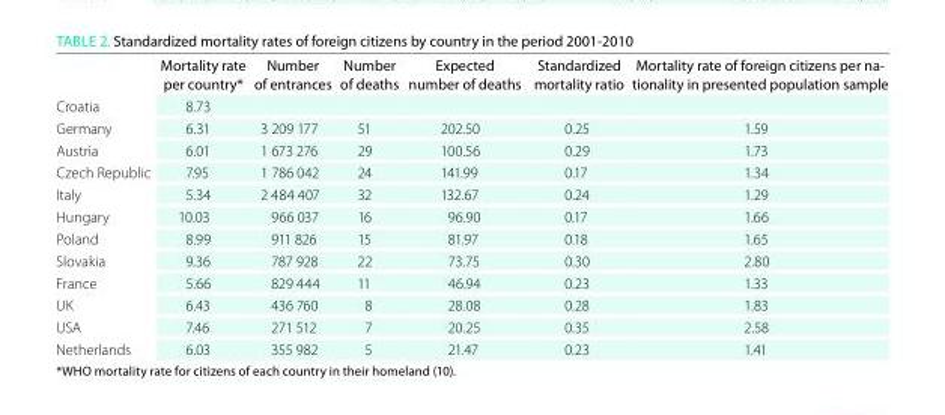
<table><thead><tr><td></td><td>Mortality rate per country*</td><td>number of entrances</td><td>number of deaths</td><td>expected number of deaths</td><td>standardized mortality ratio</td><td>Mortality rate of foreign citizens per na- tionality in presented population sample</td></tr></thead><tbody><tr><td>Croatia</td><td>8.73</td><td></td><td></td><td></td><td></td><td></td></tr><tr><td>Germany</td><td>6.31</td><td>3 209 177</td><td>51</td><td>202.50</td><td>0.25</td><td>1.59</td></tr><tr><td>Austria</td><td>6.01</td><td>1 673 276</td><td>29</td><td>100.56</td><td>0.29</td><td>1.73</td></tr><tr><td>Czech Republic</td><td>7.95</td><td>1 786 042</td><td>24</td><td>141.99</td><td>0.17</td><td>1.34</td></tr><tr><td>Italy</td><td>5.34</td><td>2 484 407</td><td>32</td><td>132.67</td><td>0.24</td><td>1.29</td></tr><tr><td>Hungary</td><td>10.03</td><td>966 037</td><td>16</td><td>96.90</td><td>0.17</td><td>1.66</td></tr><tr><td>Poland</td><td>8.99</td><td>911 826</td><td>15</td><td>81.97</td><td>0.18</td><td>1.65</td></tr><tr><td>Slovakia</td><td>9.36</td><td>787 928</td><td>22</td><td>73.75</td><td>0.30</td><td>2.80</td></tr><tr><td>France</td><td>5.66</td><td>829 444</td><td>11</td><td>46.94</td><td>0.23</td><td>1.33</td></tr><tr><td>UK</td><td>6.43</td><td>436 760</td><td>8</td><td>28.08</td><td>0.28</td><td>1.83</td></tr><tr><td>USA</td><td>7.46</td><td>271 512</td><td>7</td><td>20.25</td><td>0.35</td><td>2.58</td></tr><tr><td>Netherlands</td><td>6.03</td><td>355 982</td><td>5</td><td>21.47</td><td>0.23</td><td>1.41</td></tr></tbody></table>